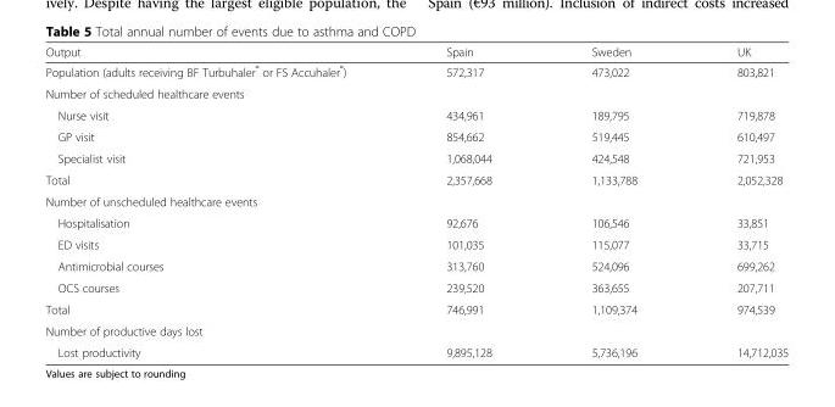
<table><thead><tr><td>Output</td><td>Spain</td><td>Sweden</td><td>UK</td></tr></thead><tbody><tr><td>Population (adults receiving BF Turbuhaler<sup>®</sup> or FS Accuhaler<sup>®</sup>)</td><td>572,317</td><td>473,022</td><td>803,821</td></tr><tr><td colspan="4">Number of scheduled healthcare events</td></tr><tr><td>Nurse visit</td><td>434,961</td><td>189,795</td><td>719,878</td></tr><tr><td>GP visit</td><td>854,662</td><td>519,445</td><td>610,497</td></tr><tr><td>Specialist visit</td><td>1,068,044</td><td>424,548</td><td>721,953</td></tr><tr><td>Total</td><td>2,357,668</td><td>1,133,788</td><td>2,052,328</td></tr><tr><td colspan="4">Number of unscheduled healthcare events</td></tr><tr><td>Hospitalisation</td><td>92,676</td><td>106,546</td><td>33,851</td></tr><tr><td>ED visits</td><td>101,035</td><td>115,077</td><td>33,715</td></tr><tr><td>Antimicrobial courses</td><td>313,760</td><td>524,096</td><td>699,262</td></tr><tr><td>OCS courses</td><td>239,520</td><td>363,655</td><td>207,711</td></tr><tr><td>Total</td><td>746,991</td><td>1,109,374</td><td>974,539</td></tr><tr><td colspan="4">Number of productive days lost</td></tr><tr><td>Lost productivity</td><td>9,895,128</td><td>5,736,196</td><td>14,712,035</td></tr></tbody></table>